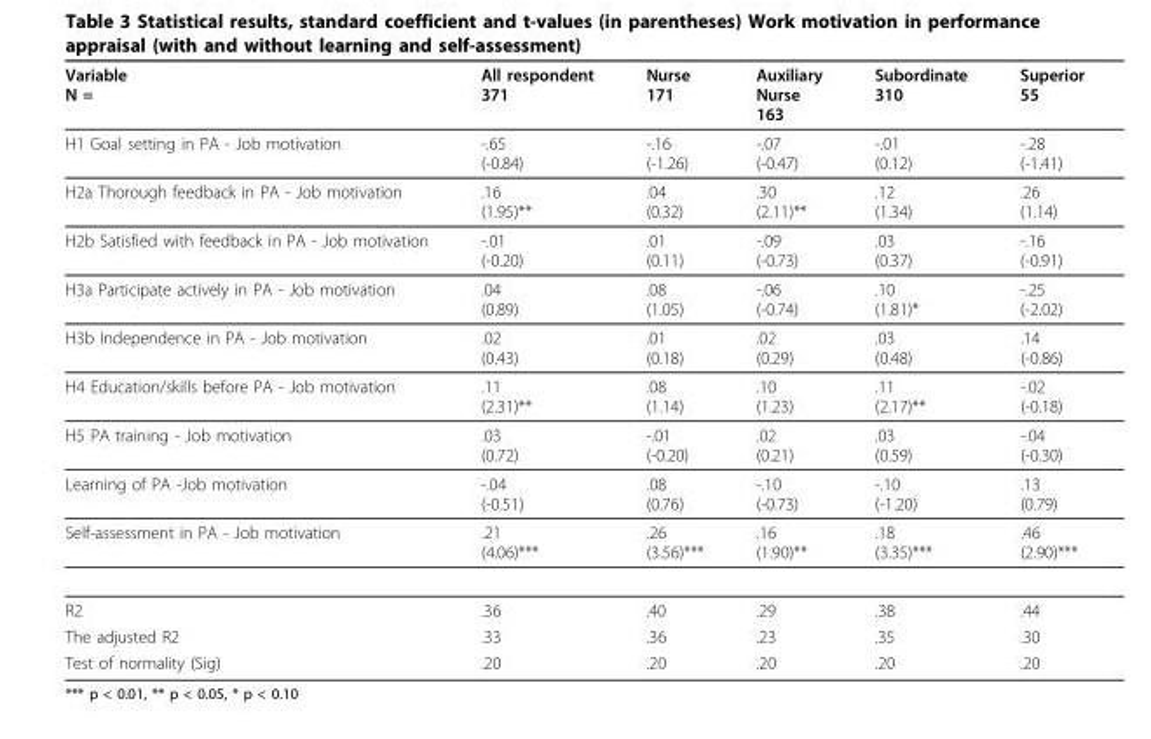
<table><thead><tr><td>Variable N =</td><td>All respondent 371</td><td>Nurse 171</td><td>Auxiliary Nurse 163</td><td>Subordinate 310</td><td>Superior 55</td></tr></thead><tbody><tr><td>H1 Goal setting in PA - Job motivation</td><td>-.65 (-0.84)</td><td>-.16 (-1.26)</td><td>-.07 (-0.47)</td><td>-.01 (0.12)</td><td>-.28 (-1.41)</td></tr><tr><td>H2a Thorough feedback in PA - Job motivation</td><td>.16 (1.95)**</td><td>.04 (0.32)</td><td>.30 (2.11)**</td><td>.12 (1.34)</td><td>.26 (1.14)</td></tr><tr><td>H2b Satisfied with feedback in PA - Job motivation</td><td>-.01 (-0.20)</td><td>.01 (0.11)</td><td>-.09 (-0.73)</td><td>.03 (0.37)</td><td>-.16 (-0.91)</td></tr><tr><td>H3a Participate actively in PA - Job motivation</td><td>.04 (0.89)</td><td>.08 (1.05)</td><td>-.06 (-0.74)</td><td>.10 (1.81)*</td><td>-.25 (-2.02)</td></tr><tr><td>H3b Independence in PA - Job motivation</td><td>.02 (0.43)</td><td>.01 (0.18)</td><td>.02 (0.29)</td><td>.03 (0.48)</td><td>.14 (-0.86)</td></tr><tr><td>H4 Education/skills before PA - Job motivation</td><td>.11 (2.31)**</td><td>.08 (1.14)</td><td>.10 (1.23)</td><td>.11 (2.17)**</td><td>-.02 (-0.18)</td></tr><tr><td>H5 PA training - Job motivation</td><td>.03 (0.72)</td><td>-.01 (-0.20)</td><td>.02 (0.21)</td><td>.03 (0.59)</td><td>-.04 (-0.30)</td></tr><tr><td>Learning of PA -Job motivation</td><td>-.04 (-0.51)</td><td>.08 (0.76)</td><td>-.10 (-0.73)</td><td>-.10 (-1.20)</td><td>.13 (0.79)</td></tr><tr><td>Self-assessment in PA - Job motivation</td><td>.21 (4.06)***</td><td>.26 (3.56)***</td><td>.16 (1.90)**</td><td>.18 (3.35)***</td><td>.46 (2.90)***</td></tr><tr><td>R2</td><td>.36</td><td>.40</td><td>.29</td><td>.38</td><td>.44</td></tr><tr><td>The adjusted R2</td><td>.33</td><td>.36</td><td>.23</td><td>.35</td><td>.30</td></tr><tr><td>Test of normality (Sig)</td><td>.20</td><td>.20</td><td>.20</td><td>.20</td><td>.20</td></tr></tbody></table>